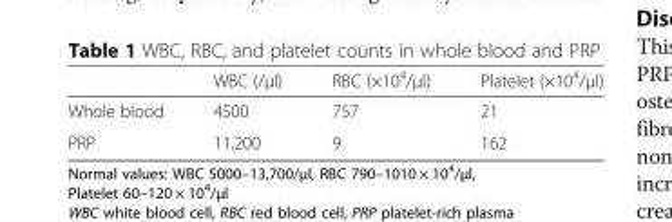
<table><thead><tr><td></td><td>WBC (/μl)</td><td>RBC (×10<sup>4</sup>/μl)</td><td>Platelet (×10<sup>4</sup>/μl)</td></tr></thead><tbody><tr><td>Whole blood</td><td>4500</td><td>757</td><td>21</td></tr><tr><td>PRP</td><td>11,200</td><td>9</td><td>162</td></tr></tbody></table>